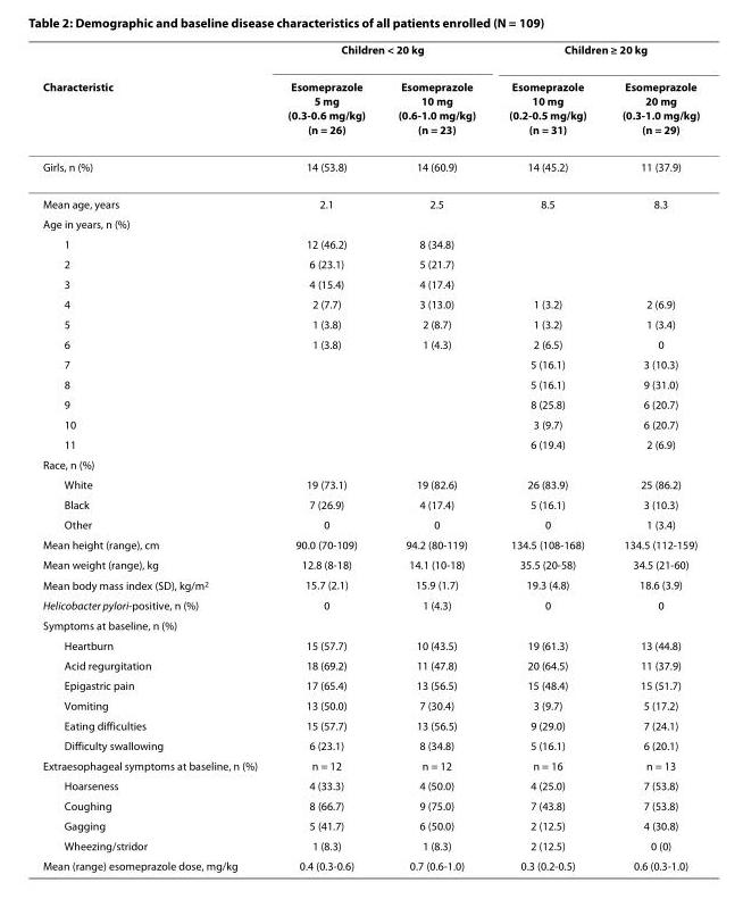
<table><thead><tr><td rowspan="2">Characteristic</td><td colspan="2">Children &lt; 20 kg</td><td colspan="2">Children ≥ 20 kg</td></tr><tr><td>Esomeprazole 5 mg (0.3-0.6 mg/kg) (n = 26)</td><td>Esomeprazole 10 mg (0.6-1.0 mg/kg) (n = 23)</td><td>Esomeprazole 10 mg (0.2-0.5 mg/kg) (n = 31)</td><td>Esomeprazole 20 mg (0.3-1.0 mg/kg) (n = 29)</td></tr></thead><tbody><tr><td>Girls, n (%)</td><td>14 (53.8)</td><td>14 (60.9)</td><td>14 (45.2)</td><td>11 (37.9)</td></tr><tr><td>Mean age, years</td><td>2.1</td><td>2.5</td><td>8.5</td><td>8.3</td></tr><tr><td colspan="5">Age in years, n (%)</td></tr><tr><td>1</td><td>12 (46.2)</td><td>8 (34.8)</td><td></td><td></td></tr><tr><td>2</td><td>6 (23.1)</td><td>5 (21.7)</td><td></td><td></td></tr><tr><td>3</td><td>4 (15.4)</td><td>4 (17.4)</td><td></td><td></td></tr><tr><td>4</td><td>2 (7.7)</td><td>3 (13.0)</td><td>1 (3.2)</td><td>2 (6.9)</td></tr><tr><td>5</td><td>1 (3.8)</td><td>2 (8.7)</td><td>1 (3.2)</td><td>1 (3.4)</td></tr><tr><td>6</td><td>1 (3.8)</td><td>1 (4.3)</td><td>2 (6.5)</td><td>0</td></tr><tr><td>7</td><td></td><td></td><td>5 (16.1)</td><td>3 (10.3)</td></tr><tr><td>8</td><td></td><td></td><td>5 (16.1)</td><td>9 (31.0)</td></tr><tr><td>9</td><td></td><td></td><td>8 (25.8)</td><td>6 (20.7)</td></tr><tr><td>10</td><td></td><td></td><td>3 (9.7)</td><td>6 (20.7)</td></tr><tr><td>11</td><td></td><td></td><td>6 (19.4)</td><td>2 (6.9)</td></tr><tr><td colspan="5">Race, n (%)</td></tr><tr><td>White</td><td>19 (73.1)</td><td>19 (82.6)</td><td>26 (83.9)</td><td>25 (86.2)</td></tr><tr><td>Black</td><td>7 (26.9)</td><td>4 (17.4)</td><td>5 (16.1)</td><td>3 (10.3)</td></tr><tr><td>Other</td><td>0</td><td>0</td><td>0</td><td>1 (3.4)</td></tr><tr><td>Mean height (range), cm</td><td>90.0 (70-109)</td><td>94.2 (80-119)</td><td>134.5 (108-168)</td><td>134.5 (112-159)</td></tr><tr><td>Mean weight (range), kg</td><td>12.8 (8-18)</td><td>14.1 (10-18)</td><td>35.5 (20-58)</td><td>34.5 (21-60)</td></tr><tr><td>Mean body mass index (SD), kg/m<sup>2</sup></td><td>15.7 (2.1)</td><td>15.9 (1.7)</td><td>19.3 (4.8)</td><td>18.6 (3.9)</td></tr><tr><td>Helicobacter pylori-positive, n (%)</td><td>0</td><td>1 (4.3)</td><td>0</td><td>0</td></tr><tr><td colspan="5">Symptoms at baseline, n (%)</td></tr><tr><td>Heartburn</td><td>15 (57.7)</td><td>10 (43.5)</td><td>19 (61.3)</td><td>13 (44.8)</td></tr><tr><td>Acid regurgitation</td><td>18 (69.2)</td><td>11 (47.8)</td><td>20 (64.5)</td><td>11 (37.9)</td></tr><tr><td>Epigastric pain</td><td>17 (65.4)</td><td>13 (56.5)</td><td>15 (48.4)</td><td>15 (51.7)</td></tr><tr><td>Vomiting</td><td>13 (50.0)</td><td>7 (30.4)</td><td>3 (9.7)</td><td>5 (17.2)</td></tr><tr><td>Eating difficulties</td><td>15 (57.7)</td><td>13 (56.5)</td><td>9 (29.0)</td><td>7 (24.1)</td></tr><tr><td>Difficulty swallowing</td><td>6 (23.1)</td><td>8 (34.8)</td><td>5 (16.1)</td><td>6 (20.1)</td></tr><tr><td>Extraesophageal symptoms at baseline, n (%)</td><td>n = 12</td><td>n = 12</td><td>n = 16</td><td>n = 13</td></tr><tr><td>Hoarseness</td><td>4 (33.3)</td><td>4 (50.0)</td><td>4 (25.0)</td><td>7 (53.8)</td></tr><tr><td>Coughing</td><td>8 (66.7)</td><td>9 (75.0)</td><td>7 (43.8)</td><td>7 (53.8)</td></tr><tr><td>Gagging</td><td>5 (41.7)</td><td>6 (50.0)</td><td>2 (12.5)</td><td>4 (30.8)</td></tr><tr><td>Wheezing/stridor</td><td>1 (8.3)</td><td>1 (8.3)</td><td>2 (12.5)</td><td>0 (0)</td></tr><tr><td>Mean (range) esomeprazole dose, mg/kg</td><td>0.4 (0.3-0.6)</td><td>0.7 (0.6-1.0)</td><td>0.3 (0.2-0.5)</td><td>0.6 (0.3-1.0)</td></tr></tbody></table>